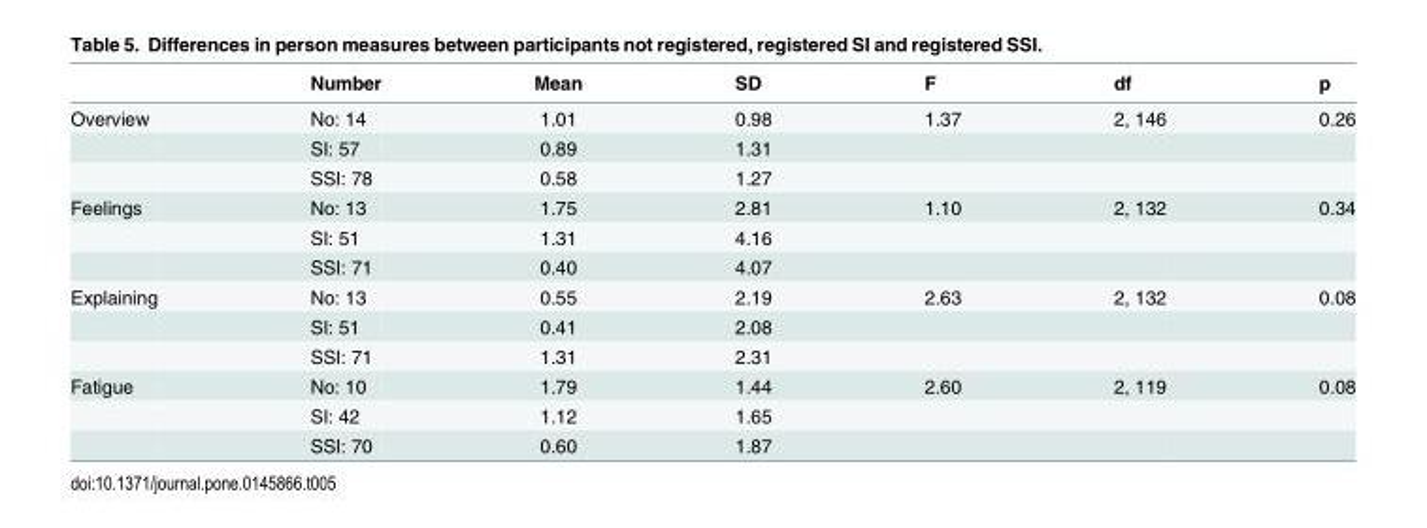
<table><thead><tr><td></td><td>Number</td><td>Mean</td><td>SD</td><td>F</td><td>df</td><td>p</td></tr></thead><tbody><tr><td rowspan="3">Overview</td><td>No: 14</td><td>1.01</td><td>0.98</td><td>1.37</td><td>2, 146</td><td>0.26</td></tr><tr><td>SI: 57</td><td>0.89</td><td>1.31</td><td></td><td></td><td></td></tr><tr><td>SSI: 78</td><td>0.58</td><td>1.27</td><td></td><td></td><td></td></tr><tr><td rowspan="3">Feelings</td><td>No: 13</td><td>1.75</td><td>2.81</td><td>1.10</td><td>2, 132</td><td>0.34</td></tr><tr><td>SI: 51</td><td>1.31</td><td>4.16</td><td></td><td></td><td></td></tr><tr><td>SSI: 71</td><td>0.40</td><td>4.07</td><td></td><td></td><td></td></tr><tr><td rowspan="3">Explaining</td><td>No: 13</td><td>0.55</td><td>2.19</td><td>2.63</td><td>2, 132</td><td>0.08</td></tr><tr><td>SI: 51</td><td>0.41</td><td>2.08</td><td></td><td></td><td></td></tr><tr><td>SSI: 71</td><td>1.31</td><td>2.31</td><td></td><td></td><td></td></tr><tr><td rowspan="3">Fatigue</td><td>No: 10</td><td>1.79</td><td>1.44</td><td>2.60</td><td>2, 119</td><td>0.08</td></tr><tr><td>SI: 42</td><td>1.12</td><td>1.65</td><td></td><td></td><td></td></tr><tr><td>SSI: 70</td><td>0.60</td><td>1.87</td><td></td><td></td><td></td></tr></tbody></table>